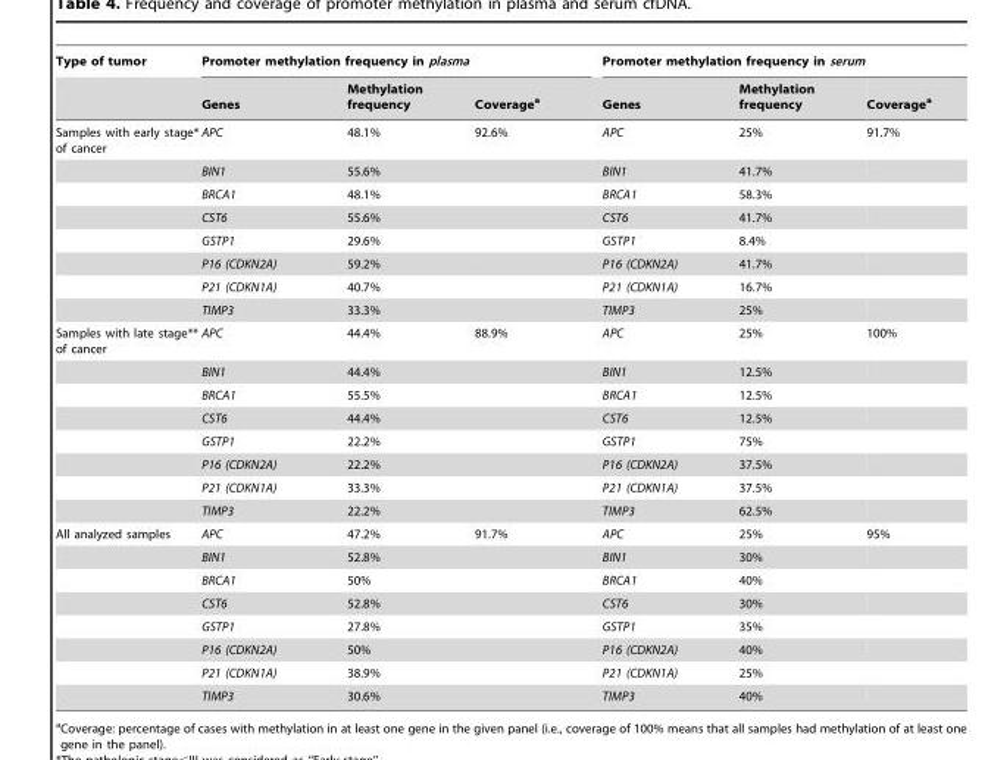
<table><thead><tr><td rowspan="2">Type of tumor</td><td colspan="3">Promoter methylation frequency in plasma</td><td colspan="3">Promoter methylation frequency in serum</td></tr><tr><td>Genes</td><td>Methylation frequency</td><td>Coverage<sup>a</sup></td><td>Genes</td><td>Methylation frequency</td><td>Coverage<sup>a</sup></td></tr></thead><tbody><tr><td rowspan="8">Samples with early stage* of cancer</td><td>APC</td><td>48.1%</td><td>92.6%</td><td>APC</td><td>25%</td><td>91.7%</td></tr><tr><td>BIN1</td><td>55.6%</td><td></td><td>BIN1</td><td>41.7%</td><td></td></tr><tr><td>BRCA1</td><td>48.1%</td><td></td><td>BRCA1</td><td>58.3%</td><td></td></tr><tr><td>CST6</td><td>55.6%</td><td></td><td>CST6</td><td>41.7%</td><td></td></tr><tr><td>GSTP1</td><td>29.6%</td><td></td><td>GSTP1</td><td>8.4%</td><td></td></tr><tr><td>P16 (CDKN2A)</td><td>59.2%</td><td></td><td>P16 (CDKN2A)</td><td>41.7%</td><td></td></tr><tr><td>P21 (CDKN1A)</td><td>40.7%</td><td></td><td>P21 (CDKN1A)</td><td>16.7%</td><td></td></tr><tr><td>TIMP3</td><td>33.3%</td><td></td><td>TIMP3</td><td>25%</td><td></td></tr><tr><td rowspan="8">Samples with late stage** of cancer</td><td>APC</td><td>44.4%</td><td>88.9%</td><td>APC</td><td>25%</td><td>100%</td></tr><tr><td>BIN1</td><td>44.4%</td><td></td><td>BIN1</td><td>12.5%</td><td></td></tr><tr><td>BRCA1</td><td>55.5%</td><td></td><td>BRCA1</td><td>12.5%</td><td></td></tr><tr><td>CST6</td><td>44.4%</td><td></td><td>CST6</td><td>12.5%</td><td></td></tr><tr><td>GSTP1</td><td>22.2%</td><td></td><td>GSTP1</td><td>75%</td><td></td></tr><tr><td>P16 (CDKN2A)</td><td>22.2%</td><td></td><td>P16 (CDKN2A)</td><td>37.5%</td><td></td></tr><tr><td>P21 (CDKN1A)</td><td>33.3%</td><td></td><td>P21 (CDKN1A)</td><td>37.5%</td><td></td></tr><tr><td>TIMP3</td><td>22.2%</td><td></td><td>TIMP3</td><td>62.5%</td><td></td></tr><tr><td rowspan="8">All analyzed samples</td><td>APC</td><td>47.2%</td><td>91.7%</td><td>APC</td><td>25%</td><td>95%</td></tr><tr><td>BIN1</td><td>52.8%</td><td></td><td>BIN1</td><td>30%</td><td></td></tr><tr><td>BRCA1</td><td>50%</td><td></td><td>BRCA1</td><td>40%</td><td></td></tr><tr><td>CST6</td><td>52.8%</td><td></td><td>CST6</td><td>30%</td><td></td></tr><tr><td>GSTP1</td><td>27.8%</td><td></td><td>GSTP1</td><td>35%</td><td></td></tr><tr><td>P16 (CDKN2A)</td><td>50%</td><td></td><td>P16 (CDKN2A)</td><td>40%</td><td></td></tr><tr><td>P21 (CDKN1A)</td><td>38.9%</td><td></td><td>P21 (CDKN1A)</td><td>25%</td><td></td></tr><tr><td>TIMP3</td><td>30.6%</td><td></td><td>TIMP3</td><td>40%</td><td></td></tr></tbody></table>